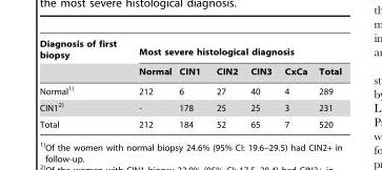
<table><thead><tr><td rowspan="2">Diagnosis of first biopsy</td><td colspan="6">Most severe histological diagnosis</td></tr><tr><td>Normal</td><td>CIN1</td><td>CIN2</td><td>CIN3</td><td>CxCa</td><td>Total</td></tr></thead><tbody><tr><td>Normal1)</td><td>212</td><td>6</td><td>27</td><td>40</td><td>4</td><td>289</td></tr><tr><td>CIN12)</td><td>-</td><td>178</td><td>25</td><td>25</td><td>3</td><td>231</td></tr><tr><td>Total</td><td>212</td><td>184</td><td>52</td><td>65</td><td>7</td><td>520</td></tr></tbody></table>